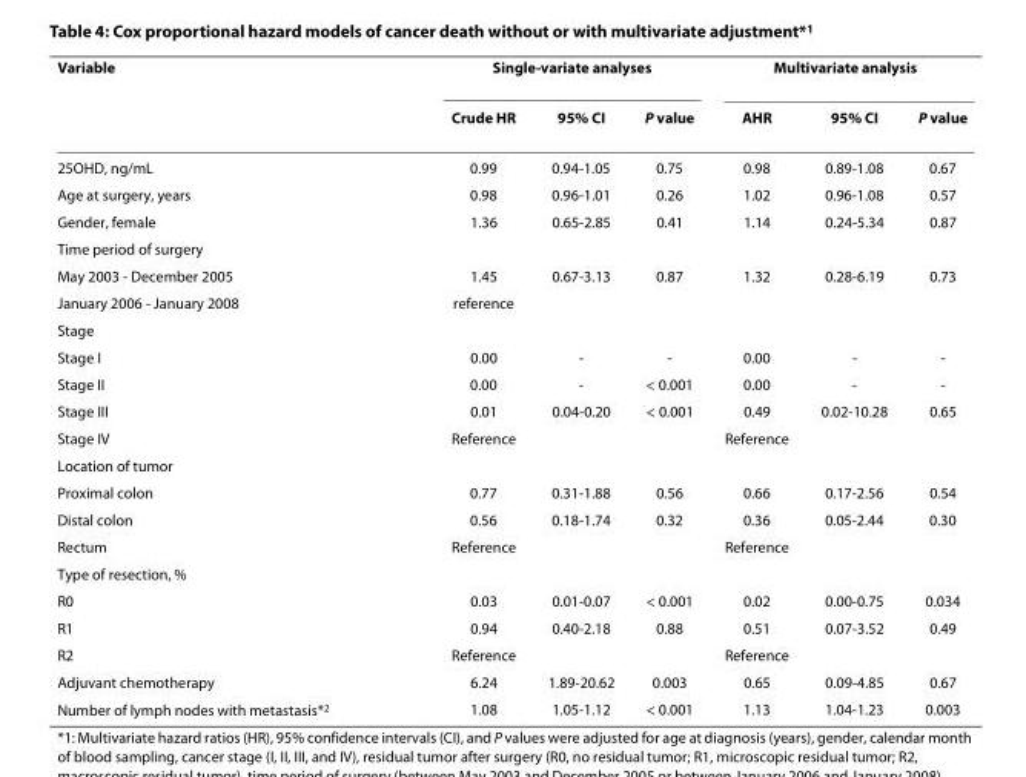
<table><thead><tr><td rowspan="2">Variable</td><td colspan="3">Single-variate analyses</td><td colspan="3">Multivariate analysis</td></tr><tr><td>Crude HR</td><td>95% CI</td><td>P value</td><td>AHR</td><td>95% CI</td><td>P value</td></tr></thead><tbody><tr><td>25OHD, ng/mL</td><td>0.99</td><td>0.94-1.05</td><td>0.75</td><td>0.98</td><td>0.89-1.08</td><td>0.67</td></tr><tr><td>Age at surgery, years</td><td>0.98</td><td>0.96-1.01</td><td>0.26</td><td>1.02</td><td>0.96-1.08</td><td>0.57</td></tr><tr><td>Gender, female</td><td>1.36</td><td>0.65-2.85</td><td>0.41</td><td>1.14</td><td>0.24-5.34</td><td>0.87</td></tr><tr><td colspan="7">Time period of surgery</td></tr><tr><td>May 2003 - December 2005</td><td>1.45</td><td>0.67-3.13</td><td>0.87</td><td>1.32</td><td>0.28-6.19</td><td>0.73</td></tr><tr><td>January 2006 - January 2008</td><td>reference</td><td></td><td></td><td></td><td></td><td></td></tr><tr><td colspan="7">Stage</td></tr><tr><td>Stage I</td><td>0.00</td><td>-</td><td>-</td><td>0.00</td><td>-</td><td>-</td></tr><tr><td>Stage II</td><td>0.00</td><td>-</td><td>&lt; 0.001</td><td>0.00</td><td>-</td><td>-</td></tr><tr><td>Stage III</td><td>0.01</td><td>0.04-0.20</td><td>&lt; 0.001</td><td>0.49</td><td>0.02-10.28</td><td>0.65</td></tr><tr><td>Stage IV</td><td>Reference</td><td></td><td></td><td>Reference</td><td></td><td></td></tr><tr><td colspan="7">Location of tumor</td></tr><tr><td>Proximal colon</td><td>0.77</td><td>0.31-1.88</td><td>0.56</td><td>0.66</td><td>0.17-2.56</td><td>0.54</td></tr><tr><td>Distal colon</td><td>0.56</td><td>0.18-1.74</td><td>0.32</td><td>0.36</td><td>0.05-2.44</td><td>0.30</td></tr><tr><td>Rectum</td><td>Reference</td><td></td><td></td><td>Reference</td><td></td><td></td></tr><tr><td colspan="7">Type of resection, %</td></tr><tr><td>R0</td><td>0.03</td><td>0.01-0.07</td><td>&lt; 0.001</td><td>0.02</td><td>0.00-0.75</td><td>0.034</td></tr><tr><td>R1</td><td>0.94</td><td>0.40-2.18</td><td>0.88</td><td>0.51</td><td>0.07-3.52</td><td>0.49</td></tr><tr><td>R2</td><td>Reference</td><td></td><td></td><td>Reference</td><td></td><td></td></tr><tr><td>Adjuvant chemotherapy</td><td>6.24</td><td>1.89-20.62</td><td>0.003</td><td>0.65</td><td>0.09-4.85</td><td>0.67</td></tr><tr><td>Number of lymph nodes with metastasis*<sup>2</sup></td><td>1.08</td><td>1.05-1.12</td><td>&lt; 0.001</td><td>1.13</td><td>1.04-1.23</td><td>0.003</td></tr></tbody></table>